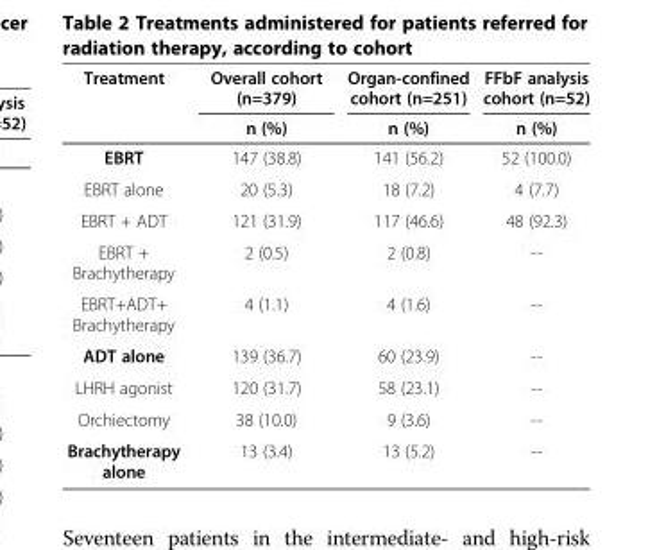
<table><thead><tr><td rowspan="2">Treatment</td><td rowspan="2">Overall cohort (n=379) n (%)</td><td rowspan="2">Organ-confined cohort (n=251) n (%)</td><td rowspan="2">FFbF analysis cohort (n=52) n (%)</td></tr><tr></tr></thead><tbody><tr><td>EBRT</td><td>147 (38.8)</td><td>141 (56.2)</td><td>52 (100.0)</td></tr><tr><td>EBRT alone</td><td>20 (5.3)</td><td>18 (7.2)</td><td>4 (7.7)</td></tr><tr><td>EBRT + ADT</td><td>121 (31.9)</td><td>117 (46.6)</td><td>48 (92.3)</td></tr><tr><td>EBRT + Brachytherapy</td><td>2 (0.5)</td><td>2 (0.8)</td><td>--</td></tr><tr><td>EBRT+ADT+ Brachytherapy</td><td>4 (1.1)</td><td>4 (1.6)</td><td>--</td></tr><tr><td>ADT alone</td><td>139 (36.7)</td><td>60 (23.9)</td><td>--</td></tr><tr><td>LHRH agonist</td><td>120 (31.7)</td><td>58 (23.1)</td><td>--</td></tr><tr><td>Orchiectomy</td><td>38 (10.0)</td><td>9 (3.6)</td><td>--</td></tr><tr><td>Brachytherapy alone</td><td>13 (3.4)</td><td>13 (5.2)</td><td>--</td></tr></tbody></table>